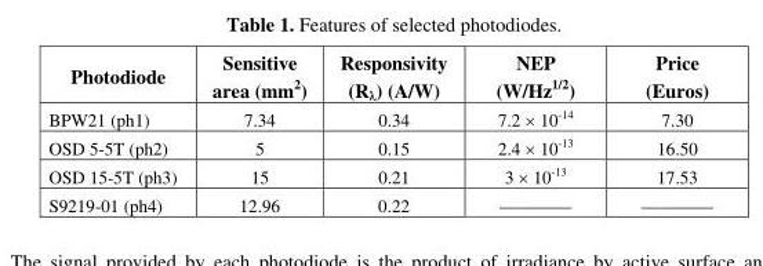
<table><thead><tr><td>Photodiode</td><td>Sensitive area (mm<sup>2</sup>)</td><td>Responsivity (R<sub>λ</sub>) (A/W)</td><td>NEP (W/Hz<sup>1/2</sup>)</td><td>Price (Euros)</td></tr></thead><tbody><tr><td>BPW21 (ph1)</td><td>7.34</td><td>0.34</td><td>7.2 × 10<sup>-14</sup></td><td>7.30</td></tr><tr><td>OSD 5-5T (ph2)</td><td>5</td><td>0.15</td><td>2.4 × 10<sup>-13</sup></td><td>16.50</td></tr><tr><td>OSD 15-5T (ph3)</td><td>15</td><td>0.21</td><td>3 × 10<sup>-13</sup></td><td>17.53</td></tr><tr><td>S9219-01 (ph4)</td><td>12.96</td><td>0.22</td><td>————</td><td>————</td></tr></tbody></table>